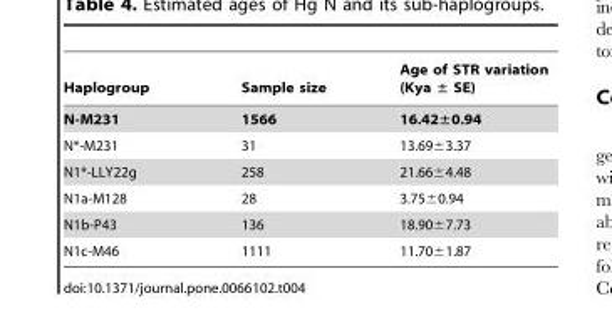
<table><thead><tr><td>Haplogroup</td><td>Sample size</td><td>Age of STR variation (Kya ± SE)</td></tr></thead><tbody><tr><td>N-M231</td><td>1566</td><td>16.42±0.94</td></tr><tr><td>N*-M231</td><td>31</td><td>13.69±3.37</td></tr><tr><td>N1*-LLY22g</td><td>258</td><td>21.66±4.48</td></tr><tr><td>N1a-M128</td><td>28</td><td>3.75±0.94</td></tr><tr><td>N1b-P43</td><td>136</td><td>18.90±7.73</td></tr><tr><td>N1c-M46</td><td>1111</td><td>11.70±1.87</td></tr></tbody></table>